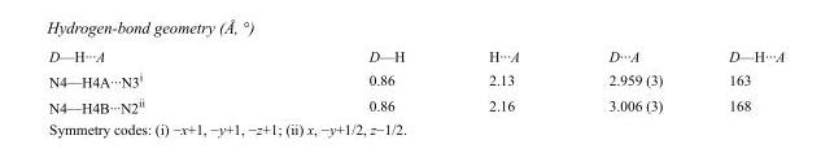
<table><tbody><tr><td>D—H···A</td><td>D—H</td><td>H···A</td><td>D···A</td><td>D—H···A</td></tr><tr><td>N4—H4A···N3<sup>i</sup></td><td>0.86</td><td>2.13</td><td>2.959 (3)</td><td>163</td></tr><tr><td>N4—H4B···N2<sup>ii</sup></td><td>0.86</td><td>2.16</td><td>3.006 (3)</td><td>168</td></tr></tbody></table>